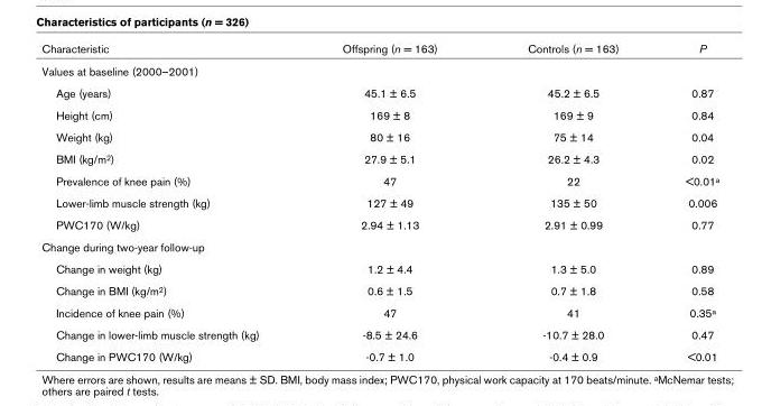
<table><thead><tr><td>Characteristic</td><td>Offspring (n = 163)</td><td>Controls (n = 163)</td><td>P</td></tr></thead><tbody><tr><td colspan="4">Values at baseline (2000–2001)</td></tr><tr><td>Age (years)</td><td>45.1 ± 6.5</td><td>45.2 ± 6.5</td><td>0.87</td></tr><tr><td>Height (cm)</td><td>169 ± 8</td><td>169 ± 9</td><td>0.84</td></tr><tr><td>Weight (kg)</td><td>80 ± 16</td><td>75 ± 14</td><td>0.04</td></tr><tr><td>BMI (kg/m2)</td><td>27.9 ± 5.1</td><td>26.2 ± 4.3</td><td>0.02</td></tr><tr><td>Prevalence of knee pain (%)</td><td>47</td><td>22</td><td>&lt;0.01a</td></tr><tr><td>Lower-limb muscle strength (kg)</td><td>127 ± 49</td><td>135 ± 50</td><td>0.006</td></tr><tr><td>PWC170 (W/kg)</td><td>2.94 ± 1.13</td><td>2.91 ± 0.99</td><td>0.77</td></tr><tr><td colspan="4">Change during two-year follow-up</td></tr><tr><td>Change in weight (kg)</td><td>1.2 ± 4.4</td><td>1.3 ± 5.0</td><td>0.89</td></tr><tr><td>Change in BMI (kg/m2)</td><td>0.6 ± 1.5</td><td>0.7 ± 1.8</td><td>0.58</td></tr><tr><td>Incidence of knee pain (%)</td><td>47</td><td>41</td><td>0.35a</td></tr><tr><td>Change in lower-limb muscle strength (kg)</td><td>-8.5 ± 24.6</td><td>-10.7 ± 28.0</td><td>0.47</td></tr><tr><td>Change in PWC170 (W/kg)</td><td>-0.7 ± 1.0</td><td>-0.4 ± 0.9</td><td>&lt;0.01</td></tr></tbody></table>